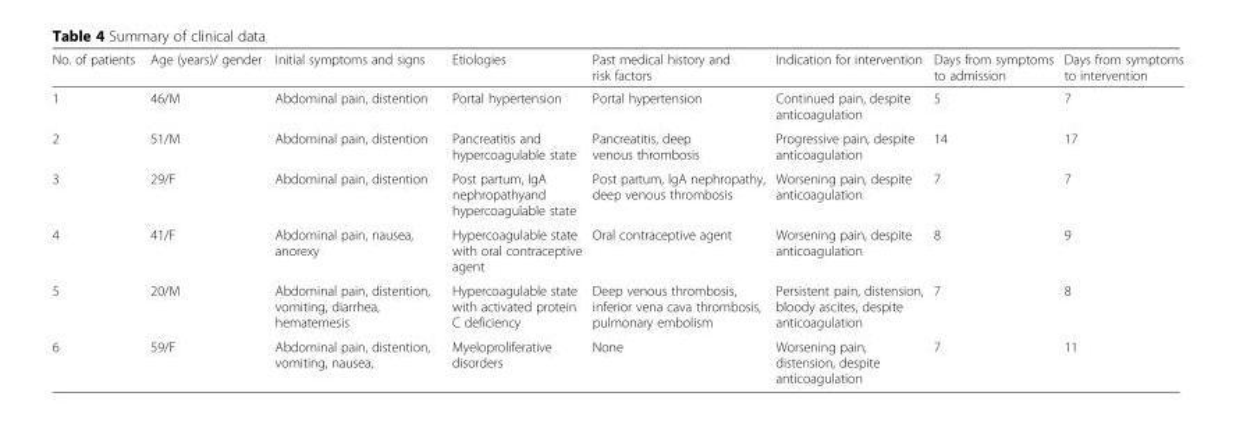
<table><thead><tr><td>No. of patients</td><td>Age (years)/ gender</td><td>Initial symptoms and signs</td><td>Etiologies</td><td>Past medical history and risk factors</td><td>Indication for intervention</td><td>Days from symptoms to admission</td><td>Days from symptoms to intervention</td></tr></thead><tbody><tr><td>1</td><td>46/M</td><td>Abdominal pain, distention</td><td>Portal hypertension</td><td>Portal hypertension</td><td>Continued pain, despite anticoagulation</td><td>5</td><td>7</td></tr><tr><td>2</td><td>51/M</td><td>Abdominal pain, distention</td><td>Pancreatitis and hypercoagulable state</td><td>Pancreatitis, deep venous thrombosis</td><td>Progressive pain, despite anticoagulation</td><td>14</td><td>17</td></tr><tr><td>3</td><td>29/F</td><td>Abdominal pain, distention</td><td>Post partum, IgA nephropathyand hypercoagulable state</td><td>Post partum, IgA nephropathy, deep venous thrombosis</td><td>Worsening pain, despite anticoagulation</td><td>7</td><td>7</td></tr><tr><td>4</td><td>41/F</td><td>Abdominal pain, nausea, anorexy</td><td>Hypercoagulable state with oral contraceptive agent</td><td>Oral contraceptive agent</td><td>Worsening pain, despite anticoagulation</td><td>8</td><td>9</td></tr><tr><td>5</td><td>20/M</td><td>Abdominal pain, distention, vomiting, diarrhea, hematemesis</td><td>Hypercoagulable state with activated protein C deficiency</td><td>Deep venous thrombosis, inferior vena cava thrombosis, pulmonary embolism</td><td>Persistent pain, distension, bloody ascites, despite anticoagulation</td><td>7</td><td>8</td></tr><tr><td>6</td><td>59/F</td><td>Abdominal pain, distention, vomiting, nausea,</td><td>Myeloproliferative disorders</td><td>None</td><td>Worsening pain, distension, despite anticoagulation</td><td>7</td><td>11</td></tr></tbody></table>